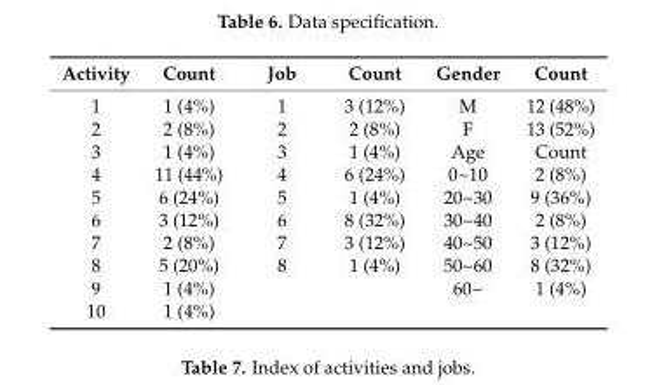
<table><thead><tr><td>Activity</td><td>Count</td><td>Job</td><td>Count</td><td>Gender</td><td>Count</td></tr></thead><tbody><tr><td>1</td><td>1 (4%)</td><td>1</td><td>3 (12%)</td><td>M</td><td>12 (48%)</td></tr><tr><td>2</td><td>2 (8%)</td><td>2</td><td>2 (8%)</td><td>F</td><td>13 (52%)</td></tr><tr><td>3</td><td>1 (4%)</td><td>3</td><td>1 (4%)</td><td>Age</td><td>Count</td></tr><tr><td>4</td><td>11 (44%)</td><td>4</td><td>6 (24%)</td><td>0~10</td><td>2 (8%)</td></tr><tr><td>5</td><td>6 (24%)</td><td>5</td><td>1 (4%)</td><td>20~30</td><td>9 (36%)</td></tr><tr><td>6</td><td>3 (12%)</td><td>6</td><td>8 (32%)</td><td>30~40</td><td>2 (8%)</td></tr><tr><td>7</td><td>2 (8%)</td><td>7</td><td>3 (12%)</td><td>40~50</td><td>3 (12%)</td></tr><tr><td>8</td><td>5 (20%)</td><td>8</td><td>1 (4%)</td><td>50~60</td><td>8 (32%)</td></tr><tr><td>9</td><td>1 (4%)</td><td rowspan="2" colspan="2"></td><td>60~</td><td>1 (4%)</td></tr><tr><td>10</td><td>1 (4%)</td><td colspan="2"></td></tr></tbody></table>